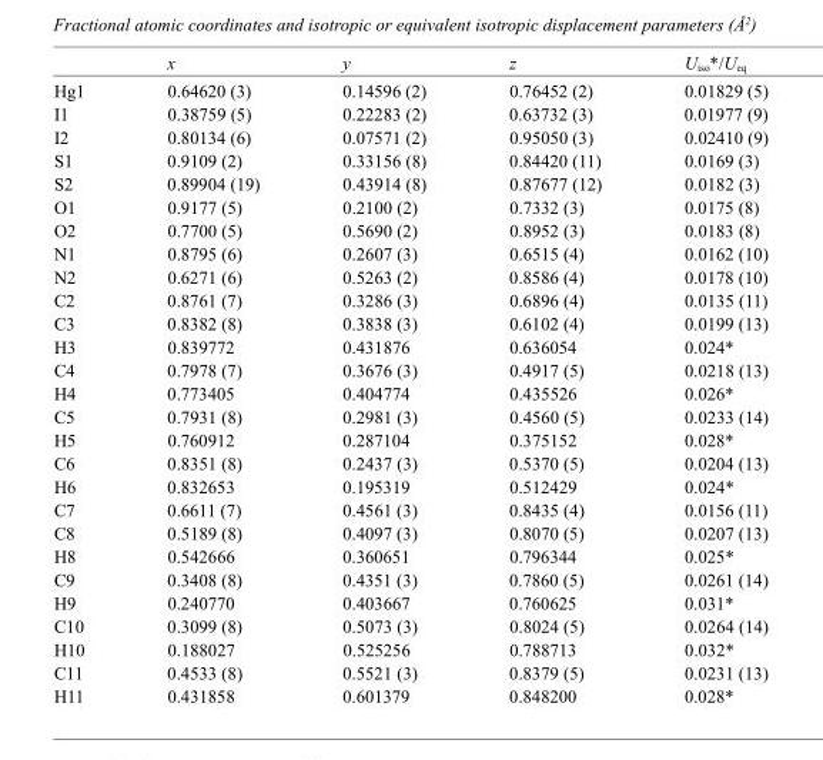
<table><thead><tr><td></td><td>x</td><td>y</td><td>z</td><td>U<sub>iso</sub>*/U<sub>eq</sub></td></tr></thead><tbody><tr><td>Hg1</td><td>0.64620 (3)</td><td>0.14596 (2)</td><td>0.76452 (2)</td><td>0.01829 (5)</td></tr><tr><td>I1</td><td>0.38759 (5)</td><td>0.22283 (2)</td><td>0.63732 (3)</td><td>0.01977 (9)</td></tr><tr><td>I2</td><td>0.80134 (6)</td><td>0.07571 (2)</td><td>0.95050 (3)</td><td>0.02410 (9)</td></tr><tr><td>S1</td><td>0.9109 (2)</td><td>0.33156 (8)</td><td>0.84420 (11)</td><td>0.0169 (3)</td></tr><tr><td>S2</td><td>0.89904 (19)</td><td>0.43914 (8)</td><td>0.87677 (12)</td><td>0.0182 (3)</td></tr><tr><td>O1</td><td>0.9177 (5)</td><td>0.2100 (2)</td><td>0.7332 (3)</td><td>0.0175 (8)</td></tr><tr><td>O2</td><td>0.7700 (5)</td><td>0.5690 (2)</td><td>0.8952 (3)</td><td>0.0183 (8)</td></tr><tr><td>N1</td><td>0.8795 (6)</td><td>0.2607 (3)</td><td>0.6515 (4)</td><td>0.0162 (10)</td></tr><tr><td>N2</td><td>0.6271 (6)</td><td>0.5263 (2)</td><td>0.8586 (4)</td><td>0.0178 (10)</td></tr><tr><td>C2</td><td>0.8761 (7)</td><td>0.3286 (3)</td><td>0.6896 (4)</td><td>0.0135 (11)</td></tr><tr><td>C3</td><td>0.8382 (8)</td><td>0.3838 (3)</td><td>0.6102 (4)</td><td>0.0199 (13)</td></tr><tr><td>H3</td><td>0.839772</td><td>0.431876</td><td>0.636054</td><td>0.024*</td></tr><tr><td>C4</td><td>0.7978 (7)</td><td>0.3676 (3)</td><td>0.4917 (5)</td><td>0.0218 (13)</td></tr><tr><td>H4</td><td>0.773405</td><td>0.404774</td><td>0.435526</td><td>0.026*</td></tr><tr><td>C5</td><td>0.7931 (8)</td><td>0.2981 (3)</td><td>0.4560 (5)</td><td>0.0233 (14)</td></tr><tr><td>H5</td><td>0.760912</td><td>0.287104</td><td>0.375152</td><td>0.028*</td></tr><tr><td>C6</td><td>0.8351 (8)</td><td>0.2437 (3)</td><td>0.5370 (5)</td><td>0.0204 (13)</td></tr><tr><td>H6</td><td>0.832653</td><td>0.195319</td><td>0.512429</td><td>0.024*</td></tr><tr><td>C7</td><td>0.6611 (7)</td><td>0.4561 (3)</td><td>0.8435 (4)</td><td>0.0156 (11)</td></tr><tr><td>C8</td><td>0.5189 (8)</td><td>0.4097 (3)</td><td>0.8070 (5)</td><td>0.0207 (13)</td></tr><tr><td>H8</td><td>0.542666</td><td>0.360651</td><td>0.796344</td><td>0.025*</td></tr><tr><td>C9</td><td>0.3408 (8)</td><td>0.4351 (3)</td><td>0.7860 (5)</td><td>0.0261 (14)</td></tr><tr><td>H9</td><td>0.240770</td><td>0.403667</td><td>0.760625</td><td>0.031*</td></tr><tr><td>C10</td><td>0.3099 (8)</td><td>0.5073 (3)</td><td>0.8024 (5)</td><td>0.0264 (14)</td></tr><tr><td>H10</td><td>0.188027</td><td>0.525256</td><td>0.788713</td><td>0.032*</td></tr><tr><td>C11</td><td>0.4533 (8)</td><td>0.5521 (3)</td><td>0.8379 (5)</td><td>0.0231 (13)</td></tr><tr><td>H11</td><td>0.431858</td><td>0.601379</td><td>0.848200</td><td>0.028*</td></tr></tbody></table>